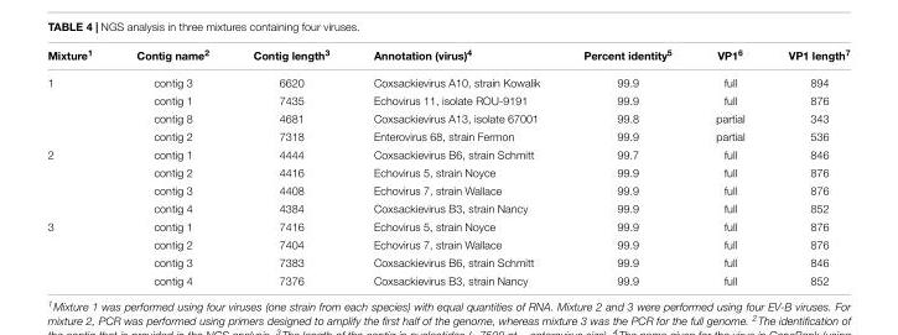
<table><thead><tr><td>Mixture<sup>1</sup></td><td>Contig name<sup>2</sup></td><td>Contig length<sup>3</sup></td><td>Annotation (virus)<sup>4</sup></td><td>Percent identity<sup>5</sup></td><td>VP1<sup>6</sup></td><td>VP1 length<sup>7</sup></td></tr></thead><tbody><tr><td rowspan="4">1</td><td>contig 3</td><td>6620</td><td>Coxsackievirus A10, strain Kowalik</td><td>99.9</td><td>full</td><td>894</td></tr><tr><td>contig 1</td><td>7435</td><td>Echovirus 11, isolate ROU-9191</td><td>99.9</td><td>full</td><td>876</td></tr><tr><td>contig 8</td><td>4681</td><td>Coxsackievirus A13, isolate 67001</td><td>99.8</td><td>partial</td><td>343</td></tr><tr><td>contig 2</td><td>7318</td><td>Enterovirus 68, strain Fermon</td><td>99.9</td><td>partial</td><td>536</td></tr><tr><td rowspan="4">2</td><td>contig 1</td><td>4444</td><td>Coxsackievirus B6, strain Schmitt</td><td>99.7</td><td>full</td><td>846</td></tr><tr><td>contig 2</td><td>4416</td><td>Echovirus 5, strain Noyce</td><td>99.9</td><td>full</td><td>876</td></tr><tr><td>contig 3</td><td>4408</td><td>Echovirus 7, strain Wallace</td><td>99.9</td><td>full</td><td>876</td></tr><tr><td>contig 4</td><td>4384</td><td>Coxsackievirus B3, strain Nancy</td><td>99.9</td><td>full</td><td>852</td></tr><tr><td rowspan="4">3</td><td>contig 1</td><td>7416</td><td>Echovirus 5, strain Noyce</td><td>99.9</td><td>full</td><td>876</td></tr><tr><td>contig 2</td><td>7404</td><td>Echovirus 7, strain Wallace</td><td>99.9</td><td>full</td><td>876</td></tr><tr><td>contig 3</td><td>7383</td><td>Coxsackievirus B6, strain Schmitt</td><td>99.9</td><td>full</td><td>846</td></tr><tr><td>contig 4</td><td>7376</td><td>Coxsackievirus B3, strain Nancy</td><td>99.9</td><td>full</td><td>852</td></tr></tbody></table>